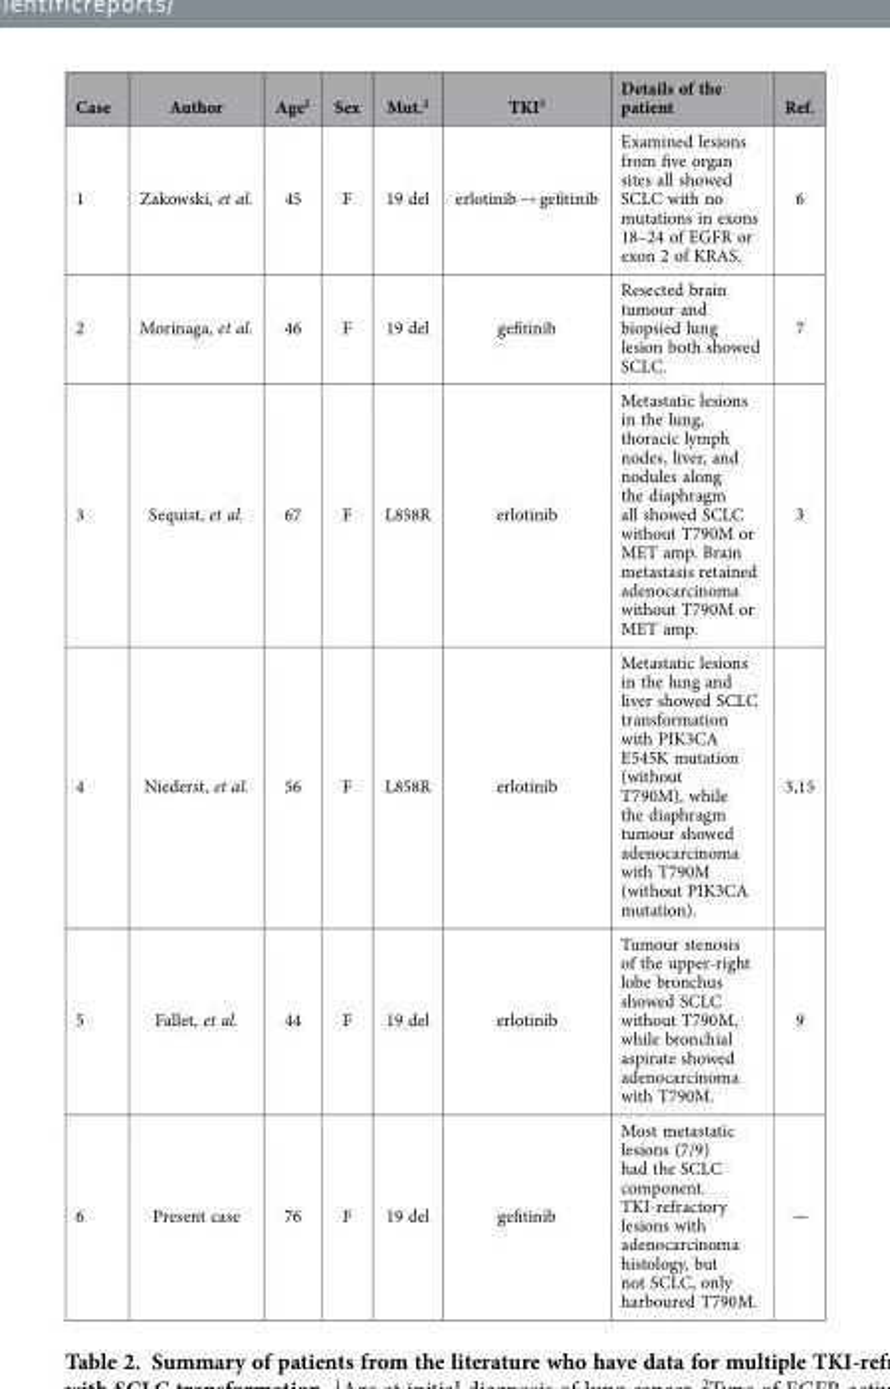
<table><thead><tr><td>Case</td><td>Author</td><td>Age<sup>1</sup></td><td>Sex</td><td>Mut.<sup>2</sup></td><td>TKI<sup>3</sup></td><td>Details of the patient</td><td>Ref.</td></tr></thead><tbody><tr><td>1</td><td>Zakowski, et al.</td><td>45</td><td>F</td><td>19 del</td><td>erlotinib → gefitinib</td><td>Examined lesions from five organ sites all showed SCLC with no mutations in exons 18–24 of EGFR or exon 2 of KRAS.</td><td>6</td></tr><tr><td>2</td><td>Morinaga, et al.</td><td>46</td><td>F</td><td>19 del</td><td>gefitinib</td><td>Resected brain tumour and biopsied lung lesion both showed SCLC.</td><td>7</td></tr><tr><td>3</td><td>Sequist, et al.</td><td>67</td><td>F</td><td>L858R</td><td>erlotinib</td><td>Metastatic lesions in the lung, thoracic lymph nodes, liver, and nodules along the diaphragm all showed SCLC without T790M or MET amp. Brain metastasis retained adenocarcinoma without T790M or MET amp.</td><td>3</td></tr><tr><td>4</td><td>Niederst, et al.</td><td>56</td><td>F</td><td>L858R</td><td>erlotinib</td><td>Metastatic lesions in the lung and liver showed SCLC transformation with PIK3CA E545K mutation (without T790M), while the diaphragm tumour showed adenocarcinoma with T790M (without PIK3CA mutation).</td><td>3,15</td></tr><tr><td>5</td><td>Fallet, et al.</td><td>44</td><td>F</td><td>19 del</td><td>erlotinib</td><td>Tumour stenosis of the upper-right lobe bronchus showed SCLC without T790M, while bronchial aspirate showed adenocarcinoma with T790M.</td><td>9</td></tr><tr><td>6</td><td>Present case</td><td>76</td><td>F</td><td>19 del</td><td>gefitinib</td><td>Most metastatic lesions (7/9) had the SCLC component. TKI-refractory lesions with adenocarcinoma histology, but not SCLC, only harboured T790M.</td><td>—</td></tr></tbody></table>